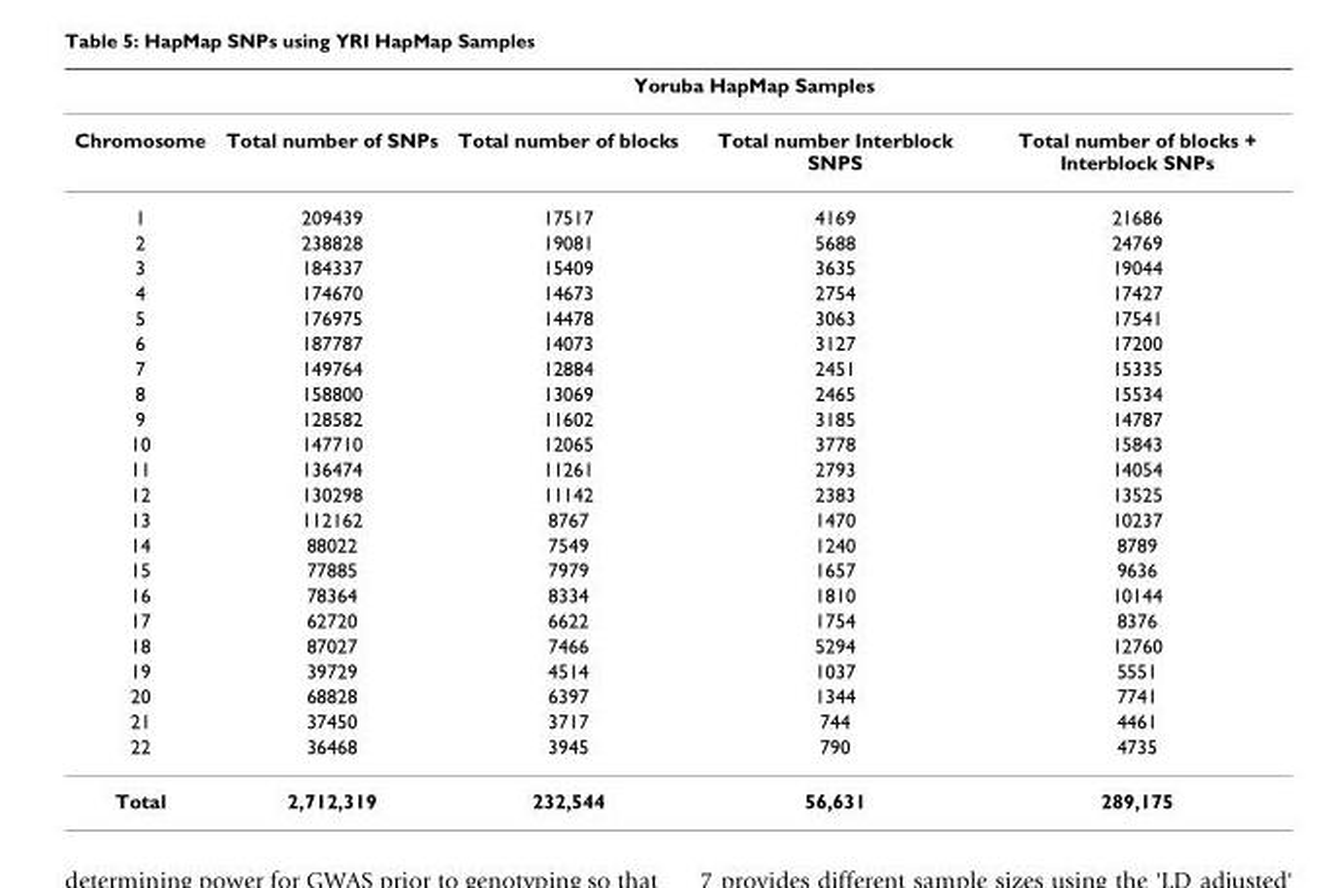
<table><thead><tr><td rowspan="2">Chromosome</td><td colspan="4">Yoruba HapMap Samples</td></tr><tr><td>Total number of SNPs</td><td>Total number of blocks</td><td>Total number Interblock SNPS</td><td>Total number of blocks + Interblock SNPs</td></tr></thead><tbody><tr><td>1</td><td>209439</td><td>17517</td><td>4169</td><td>21686</td></tr><tr><td>2</td><td>238828</td><td>19081</td><td>5688</td><td>24769</td></tr><tr><td>3</td><td>184337</td><td>15409</td><td>3635</td><td>19044</td></tr><tr><td>4</td><td>174670</td><td>14673</td><td>2754</td><td>17427</td></tr><tr><td>5</td><td>176975</td><td>14478</td><td>3063</td><td>17541</td></tr><tr><td>6</td><td>187787</td><td>14073</td><td>3127</td><td>17200</td></tr><tr><td>7</td><td>149764</td><td>12884</td><td>2451</td><td>15335</td></tr><tr><td>8</td><td>158800</td><td>13069</td><td>2465</td><td>15534</td></tr><tr><td>9</td><td>128582</td><td>11602</td><td>3185</td><td>14787</td></tr><tr><td>10</td><td>147710</td><td>12065</td><td>3778</td><td>15843</td></tr><tr><td>11</td><td>136474</td><td>11261</td><td>2793</td><td>14054</td></tr><tr><td>12</td><td>130298</td><td>11142</td><td>2383</td><td>13525</td></tr><tr><td>13</td><td>112162</td><td>8767</td><td>1470</td><td>10237</td></tr><tr><td>14</td><td>88022</td><td>7549</td><td>1240</td><td>8789</td></tr><tr><td>15</td><td>77885</td><td>7979</td><td>1657</td><td>9636</td></tr><tr><td>16</td><td>78364</td><td>8334</td><td>1810</td><td>10144</td></tr><tr><td>17</td><td>62720</td><td>6622</td><td>1754</td><td>8376</td></tr><tr><td>18</td><td>87027</td><td>7466</td><td>5294</td><td>12760</td></tr><tr><td>19</td><td>39729</td><td>4514</td><td>1037</td><td>5551</td></tr><tr><td>20</td><td>68828</td><td>6397</td><td>1344</td><td>7741</td></tr><tr><td>21</td><td>37450</td><td>3717</td><td>744</td><td>4461</td></tr><tr><td>22</td><td>36468</td><td>3945</td><td>790</td><td>4735</td></tr><tr><td>Total</td><td>2,712,319</td><td>232,544</td><td>56,631</td><td>289,175</td></tr></tbody></table>